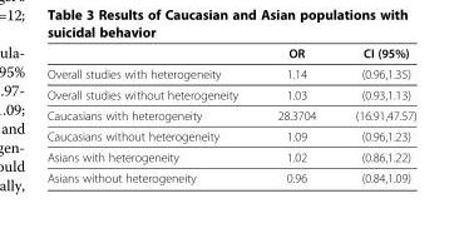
<table><thead><tr><td></td><td>OR</td><td>CI (95%)</td></tr></thead><tbody><tr><td>Overall studies with heterogeneity</td><td>1.14</td><td>(0.96,1.35)</td></tr><tr><td>Overall studies without heterogeneity</td><td>1.03</td><td>(0.93,1.13)</td></tr><tr><td>Caucasians with heterogeneity</td><td>28.3704</td><td>(16.91,47.57)</td></tr><tr><td>Caucasians without heterogeneity</td><td>1.09</td><td>(0.96,1.23)</td></tr><tr><td>Asians with heterogeneity</td><td>1.02</td><td>(0.86,1.22)</td></tr><tr><td>Asians without heterogeneity</td><td>0.96</td><td>(0.84,1.09)</td></tr></tbody></table>